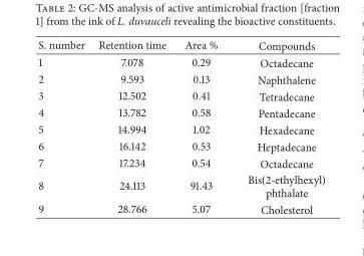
<table><thead><tr><td>S. number</td><td>Retention time</td><td>Area %</td><td>Compounds</td></tr></thead><tbody><tr><td>1</td><td>7.078</td><td>0.29</td><td>Octadecane</td></tr><tr><td>2</td><td>9.593</td><td>0.13</td><td>Naphthalene</td></tr><tr><td>3</td><td>12.502</td><td>0.41</td><td>Tetradecane</td></tr><tr><td>4</td><td>13.782</td><td>0.58</td><td>Pentadecane</td></tr><tr><td>5</td><td>14.994</td><td>1.02</td><td>Hexadecane</td></tr><tr><td>6</td><td>16.142</td><td>0.53</td><td>Heptadecane</td></tr><tr><td>7</td><td>17.234</td><td>0.54</td><td>Octadecane</td></tr><tr><td>8</td><td>24.113</td><td>91.43</td><td>Bis(2-ethylhexyl) phthalate</td></tr><tr><td>9</td><td>28.766</td><td>5.07</td><td>Cholesterol</td></tr></tbody></table>